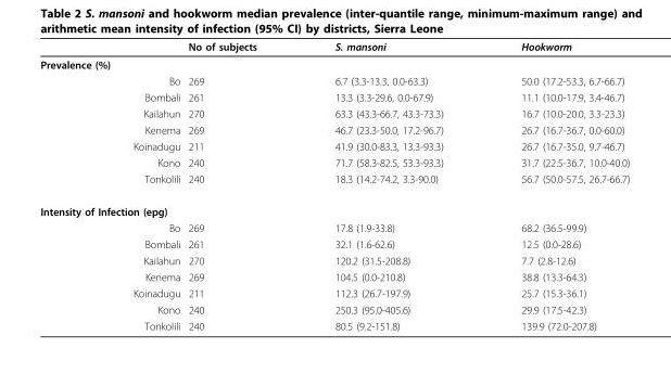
<table><thead><tr><td></td><td>No of subjects</td><td>S. mansoni</td><td>Hookworm</td></tr></thead><tbody><tr><td colspan="4">Prevalence (%)</td></tr><tr><td>Bo</td><td>269</td><td>6.7 (3.3-13.3, 0.0-63.3)</td><td>50.0 (17.2-53.3, 6.7-66.7)</td></tr><tr><td>Bombali</td><td>261</td><td>13.3 (3.3-29.6, 0.0-67.9)</td><td>11.1 (10.0-17.9, 3.4-46.7)</td></tr><tr><td>Kailahun</td><td>270</td><td>63.3 (43.3-66.7, 43.3-73.3)</td><td>16.7 (10.0-20.0, 3.3-23.3)</td></tr><tr><td>Kenema</td><td>269</td><td>46.7 (23.3-50.0, 17.2-96.7)</td><td>26.7 (16.7-36.7, 0.0-60.0)</td></tr><tr><td>Koinadugu</td><td>211</td><td>41.9 (30.0-83.3, 13.3-93.3)</td><td>26.7 (16.7-35.0, 9.7-46.7)</td></tr><tr><td>Kono</td><td>240</td><td>71.7 (58.3-82.5, 53.3-93.3)</td><td>31.7 (22.5-36.7, 10.0-40.0)</td></tr><tr><td>Tonkolili</td><td>240</td><td>18.3 (14.2-74.2, 3.3-90.0)</td><td>56.7 (50.0-57.5, 26.7-66.7)</td></tr><tr><td colspan="4">Intensity of Infection (epg)</td></tr><tr><td>Bo</td><td>269</td><td>17.8 (1.9-33.8)</td><td>68.2 (36.5-99.9)</td></tr><tr><td>Bombali</td><td>261</td><td>32.1 (1.6-62.6)</td><td>12.5 (0.0-28.6)</td></tr><tr><td>Kailahun</td><td>270</td><td>120.2 (31.5-208.8)</td><td>7.7 (2.8-12.6)</td></tr><tr><td>Kenema</td><td>269</td><td>104.5 (0.0-210.8)</td><td>38.8 (13.3-64.3)</td></tr><tr><td>Koinadugu</td><td>211</td><td>112.3 (26.7-197.9)</td><td>25.7 (15.3-36.1)</td></tr><tr><td>Kono</td><td>240</td><td>250.3 (95.0-405.6)</td><td>29.9 (17.5-42.3)</td></tr><tr><td>Tonkolili</td><td>240</td><td>80.5 (9.2-151.8)</td><td>139.9 (72.0-207.8)</td></tr></tbody></table>